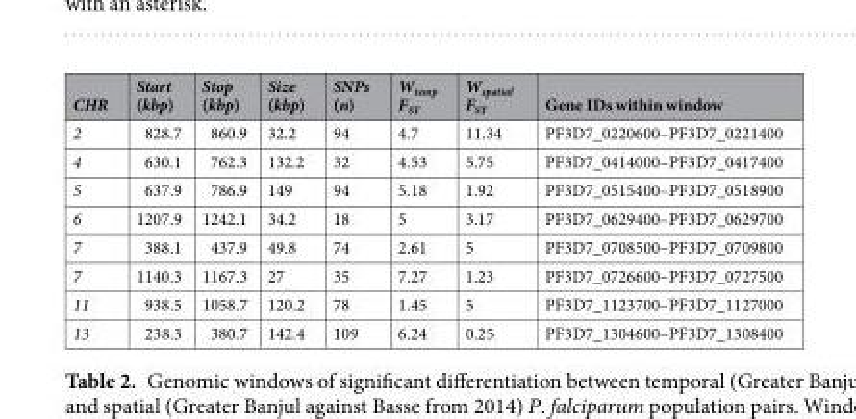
<table><thead><tr><td>CHR</td><td>Start (kbp)</td><td>Stop (kbp)</td><td>Size (kbp)</td><td>SNPs (n)</td><td>W<sub>temp</sub> F<sub>ST</sub></td><td>W<sub>spatial</sub> F<sub>ST</sub></td><td>Gene IDs within window</td></tr></thead><tbody><tr><td>2</td><td>828.7</td><td>860.9</td><td>32.2</td><td>94</td><td>4.7</td><td>11.34</td><td>PF3D7_0220600–PF3D7_0221400</td></tr><tr><td>4</td><td>630.1</td><td>762.3</td><td>132.2</td><td>32</td><td>4.53</td><td>5.75</td><td>PF3D7_0414000–PF3D7_0417400</td></tr><tr><td>5</td><td>637.9</td><td>786.9</td><td>149</td><td>94</td><td>5.18</td><td>1.92</td><td>PF3D7_0515400–PF3D7_0518900</td></tr><tr><td>6</td><td>1207.9</td><td>1242.1</td><td>34.2</td><td>18</td><td>5</td><td>3.17</td><td>PF3D7_0629400–PF3D7_0629700</td></tr><tr><td>7</td><td>388.1</td><td>437.9</td><td>49.8</td><td>74</td><td>2.61</td><td>5</td><td>PF3D7_0708500–PF3D7_0709800</td></tr><tr><td>7</td><td>1140.3</td><td>1167.3</td><td>27</td><td>35</td><td>7.27</td><td>1.23</td><td>PF3D7_0726600–PF3D7_0727500</td></tr><tr><td>11</td><td>938.5</td><td>1058.7</td><td>120.2</td><td>78</td><td>1.45</td><td>5</td><td>PF3D7_1123700–PF3D7_1127000</td></tr><tr><td>13</td><td>238.3</td><td>380.7</td><td>142.4</td><td>109</td><td>6.24</td><td>0.25</td><td>PF3D7_1304600–PF3D7_1308400</td></tr></tbody></table>